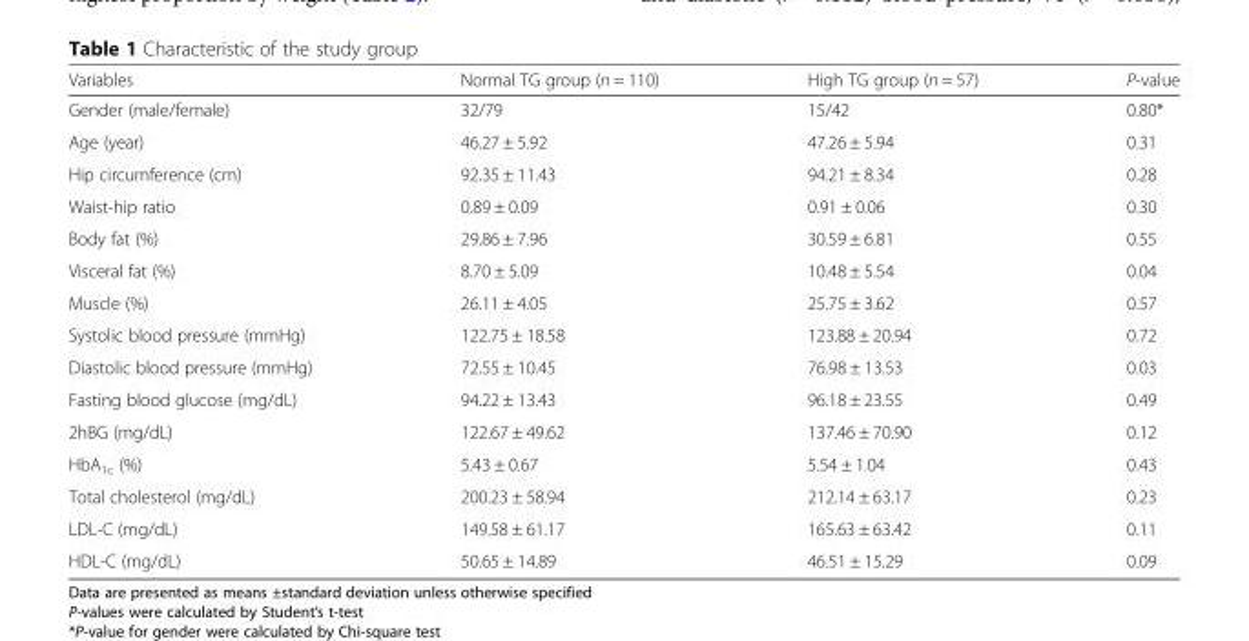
<table><thead><tr><td>Variables</td><td>Normal TG group (n = 110)</td><td>High TG group (n = 57)</td><td>P-value</td></tr></thead><tbody><tr><td>Gender (male/female)</td><td>32/79</td><td>15/42</td><td>0.80*</td></tr><tr><td>Age (year)</td><td>46.27 ± 5.92</td><td>47.26 ± 5.94</td><td>0.31</td></tr><tr><td>Hip circumference (cm)</td><td>92.35 ± 11.43</td><td>94.21 ± 8.34</td><td>0.28</td></tr><tr><td>Waist-hip ratio</td><td>0.89 ± 0.09</td><td>0.91 ± 0.06</td><td>0.30</td></tr><tr><td>Body fat (%)</td><td>29.86 ± 7.96</td><td>30.59 ± 6.81</td><td>0.55</td></tr><tr><td>Visceral fat (%)</td><td>8.70 ± 5.09</td><td>10.48 ± 5.54</td><td>0.04</td></tr><tr><td>Muscle (%)</td><td>26.11 ± 4.05</td><td>25.75 ± 3.62</td><td>0.57</td></tr><tr><td>Systolic blood pressure (mmHg)</td><td>122.75 ± 18.58</td><td>123.88 ± 20.94</td><td>0.72</td></tr><tr><td>Diastolic blood pressure (mmHg)</td><td>72.55 ± 10.45</td><td>76.98 ± 13.53</td><td>0.03</td></tr><tr><td>Fasting blood glucose (mg/dL)</td><td>94.22 ± 13.43</td><td>96.18 ± 23.55</td><td>0.49</td></tr><tr><td>2hBG (mg/dL)</td><td>122.67 ± 49.62</td><td>137.46 ± 70.90</td><td>0.12</td></tr><tr><td>HbA<sub>1c</sub> (%)</td><td>5.43 ± 0.67</td><td>5.54 ± 1.04</td><td>0.43</td></tr><tr><td>Total cholesterol (mg/dL)</td><td>200.23 ± 58.94</td><td>212.14 ± 63.17</td><td>0.23</td></tr><tr><td>LDL-C (mg/dL)</td><td>149.58 ± 61.17</td><td>165.63 ± 63.42</td><td>0.11</td></tr><tr><td>HDL-C (mg/dL)</td><td>50.65 ± 14.89</td><td>46.51 ± 15.29</td><td>0.09</td></tr></tbody></table>